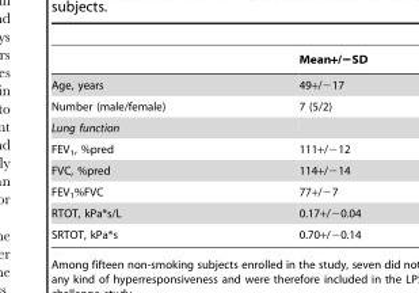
<table><thead><tr><td></td><td>Mean+/−SD</td></tr></thead><tbody><tr><td>Age, years</td><td>49+/−17</td></tr><tr><td>Number (male/female)</td><td>7 (5/2)</td></tr><tr><td colspan="2">Lung function</td></tr><tr><td>FEV<sub>1</sub>, %pred</td><td>111+/−12</td></tr><tr><td>FVC, %pred</td><td>114+/−14</td></tr><tr><td>FEV<sub>1</sub>%FVC</td><td>77+/−7</td></tr><tr><td>RTOT, kPa*s/L</td><td>0.17+/−0.04</td></tr><tr><td>SRTOT, kPa*s</td><td>0.70+/−0.14</td></tr></tbody></table>